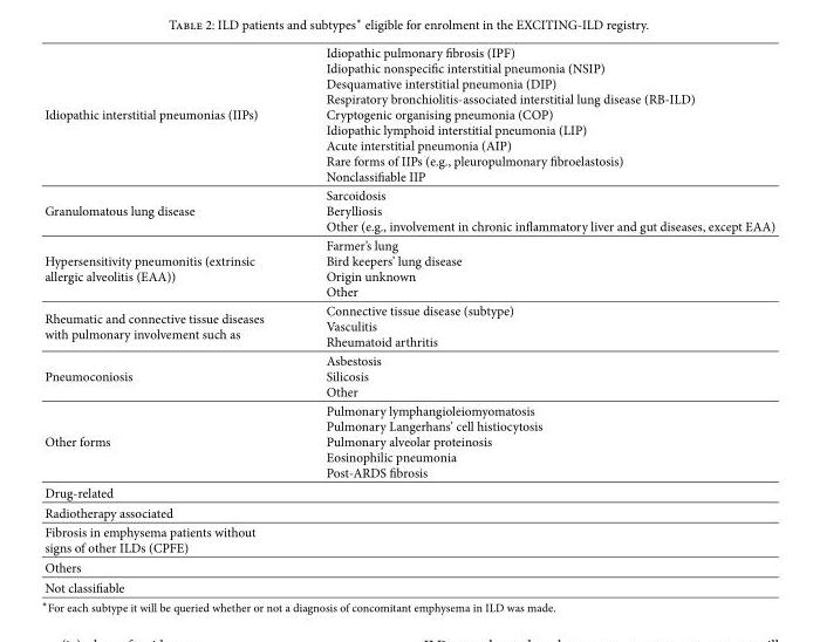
<table><tbody><tr><td>Idiopathic interstitial pneumonias (IIPs)</td><td>Idiopathic pulmonary fibrosis (IPF) Idiopathic nonspecific interstitial pneumonia (NSIP) Desquamative interstitial pneumonia (DIP) Respiratory bronchiolitis-associated interstitial lung disease (RB-ILD) Cryptogenic organising pneumonia (COP) Idiopathic lymphoid interstitial pneumonia (LIP) Acute interstitial pneumonia (AIP) Rare forms of IIPs (e.g., pleuropulmonary fibroelastosis) Nonclassifiable IIP</td></tr><tr><td>Granulomatous lung disease</td><td>Sarcoidosis Berylliosis Other (e.g., involvement in chronic inflammatory liver and gut diseases, except EAA)</td></tr><tr><td>Hypersensitivity pneumonitis (extrinsic allergic alveolitis (EAA))</td><td>Farmer’s lung Bird keepers’ lung disease Origin unknown Other</td></tr><tr><td>Rheumatic and connective tissue diseases with pulmonary involvement such as</td><td>Connective tissue disease (subtype) Vasculitis Rheumatoid arthritis</td></tr><tr><td>Pneumoconiosis</td><td>Asbestosis Silicosis Other</td></tr><tr><td>Other forms</td><td>Pulmonary lymphangioleiomyomatosis Pulmonary Langerhans’ cell histiocytosis Pulmonary alveolar proteinosis Eosinophilic pneumonia Post-ARDS fibrosis</td></tr><tr><td colspan="2">Drug-related</td></tr><tr><td colspan="2">Radiotherapy associated</td></tr><tr><td colspan="2">Fibrosis in emphysema patients without signs of other ILDs (CPFE)</td></tr><tr><td colspan="2">Others</td></tr><tr><td>Not classifiable</td><td></td></tr></tbody></table>